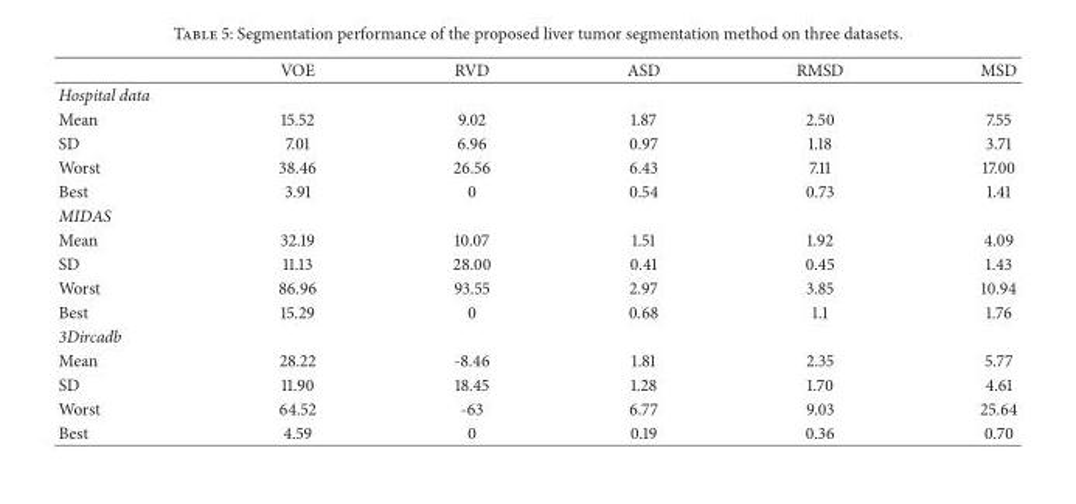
<table><thead><tr><td></td><td>VOE</td><td>RVD</td><td>ASD</td><td>RMSD</td><td>MSD</td></tr></thead><tbody><tr><td colspan="6">Hospital data</td></tr><tr><td>Mean</td><td>15.52</td><td>9.02</td><td>1.87</td><td>2.50</td><td>7.55</td></tr><tr><td>SD</td><td>7.01</td><td>6.96</td><td>0.97</td><td>1.18</td><td>3.71</td></tr><tr><td>Worst</td><td>38.46</td><td>26.56</td><td>6.43</td><td>7.11</td><td>17.00</td></tr><tr><td>Best</td><td>3.91</td><td>0</td><td>0.54</td><td>0.73</td><td>1.41</td></tr><tr><td colspan="6">MIDAS</td></tr><tr><td>Mean</td><td>32.19</td><td>10.07</td><td>1.51</td><td>1.92</td><td>4.09</td></tr><tr><td>SD</td><td>11.13</td><td>28.00</td><td>0.41</td><td>0.45</td><td>1.43</td></tr><tr><td>Worst</td><td>86.96</td><td>93.55</td><td>2.97</td><td>3.85</td><td>10.94</td></tr><tr><td>Best</td><td>15.29</td><td>0</td><td>0.68</td><td>1.1</td><td>1.76</td></tr><tr><td colspan="6">3Dircadb</td></tr><tr><td>Mean</td><td>28.22</td><td>-8.46</td><td>1.81</td><td>2.35</td><td>5.77</td></tr><tr><td>SD</td><td>11.90</td><td>18.45</td><td>1.28</td><td>1.70</td><td>4.61</td></tr><tr><td>Worst</td><td>64.52</td><td>-63</td><td>6.77</td><td>9.03</td><td>25.64</td></tr><tr><td>Best</td><td>4.59</td><td>0</td><td>0.19</td><td>0.36</td><td>0.70</td></tr></tbody></table>